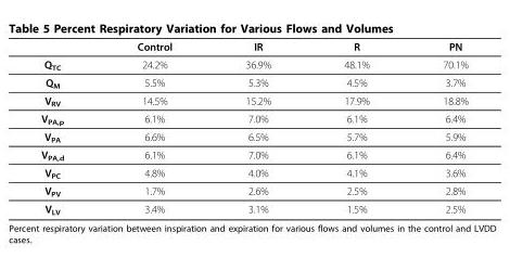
<table><thead><tr><td></td><td>Control</td><td>IR</td><td>R</td><td>PN</td></tr></thead><tbody><tr><td>Q<sub>TC</sub></td><td>24.2%</td><td>36.9%</td><td>48.1%</td><td>70.1%</td></tr><tr><td>Q<sub>M</sub></td><td>5.5%</td><td>5.3%</td><td>4.5%</td><td>3.7%</td></tr><tr><td>V<sub>RV</sub></td><td>14.5%</td><td>15.2%</td><td>17.9%</td><td>18.8%</td></tr><tr><td>V<sub>PA,p</sub></td><td>6.1%</td><td>7.0%</td><td>6.1%</td><td>6.4%</td></tr><tr><td>V<sub>PA</sub></td><td>6.6%</td><td>6.5%</td><td>5.7%</td><td>5.9%</td></tr><tr><td>V<sub>PA,d</sub></td><td>6.1%</td><td>7.0%</td><td>6.1%</td><td>6.4%</td></tr><tr><td>V<sub>PC</sub></td><td>4.8%</td><td>4.0%</td><td>4.1%</td><td>3.6%</td></tr><tr><td>V<sub>PV</sub></td><td>1.7%</td><td>2.6%</td><td>2.5%</td><td>2.8%</td></tr><tr><td>V<sub>LV</sub></td><td>3.4%</td><td>3.1%</td><td>1.5%</td><td>2.5%</td></tr></tbody></table>